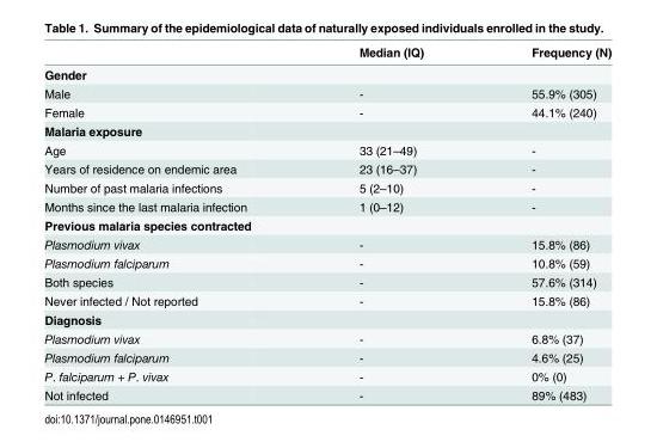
<table><thead><tr><td></td><td>Median (IQ)</td><td>Frequency (N)</td></tr></thead><tbody><tr><td colspan="3">Gender</td></tr><tr><td>Male</td><td>-</td><td>55.9% (305)</td></tr><tr><td>Female</td><td>-</td><td>44.1% (240)</td></tr><tr><td colspan="3">Malaria exposure</td></tr><tr><td>Age</td><td>33 (21–49)</td><td>-</td></tr><tr><td>Years of residence on endemic area</td><td>23 (16–37)</td><td>-</td></tr><tr><td>Number of past malaria infections</td><td>5 (2–10)</td><td>-</td></tr><tr><td>Months since the last malaria infection</td><td>1 (0–12)</td><td>-</td></tr><tr><td colspan="3">Previous malaria species contracted</td></tr><tr><td>Plasmodium vivax</td><td>-</td><td>15.8% (86)</td></tr><tr><td>Plasmodium falciparum</td><td>-</td><td>10.8% (59)</td></tr><tr><td>Both species</td><td>-</td><td>57.6% (314)</td></tr><tr><td>Never infected / Not reported</td><td>-</td><td>15.8% (86)</td></tr><tr><td colspan="3">Diagnosis</td></tr><tr><td>Plasmodium vivax</td><td>-</td><td>6.8% (37)</td></tr><tr><td>Plasmodium falciparum</td><td>-</td><td>4.6% (25)</td></tr><tr><td>P. falciparum + P. vivax</td><td>-</td><td>0% (0)</td></tr><tr><td>Not infected</td><td>-</td><td>89% (483)</td></tr></tbody></table>